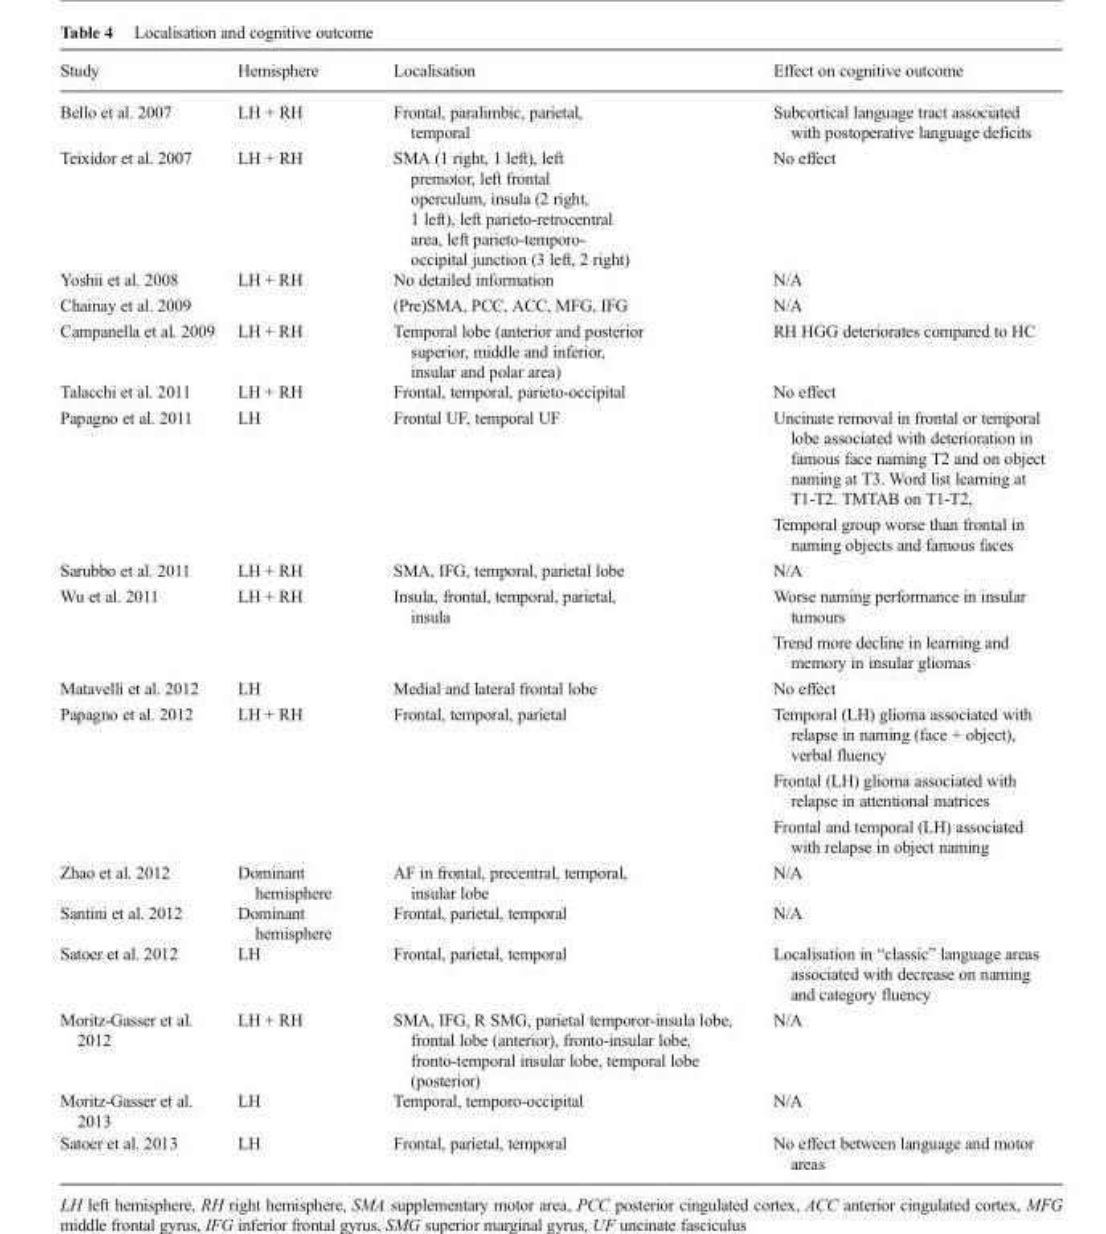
<table><thead><tr><td>Study</td><td>Hemisphere</td><td>Localisation</td><td>Effect on cognitive outcome</td></tr></thead><tbody><tr><td>Bello et al. 2007</td><td>LH + RH</td><td>Frontal, paralimbic, parietal, temporal</td><td>Subcortical language tract associated with postoperative language deficits</td></tr><tr><td>Teixidor et al. 2007</td><td>LH + RH</td><td>SMA (1 right, 1 left), left premotor, left frontal operculum, insula (2 right, 1 left), left parieto-retrocentral area, left parieto-temporo- occipital junction (3 left, 2 right)</td><td>No effect</td></tr><tr><td>Yoshii et al. 2008</td><td rowspan="2">LH + RH</td><td>No detailed information</td><td>N/A</td></tr><tr><td>Chainay et al. 2009</td><td>(Pre)SMA, PCC, ACC, MFG, IFG</td><td>N/A</td></tr><tr><td>Campanella et al. 2009</td><td>LH + RH</td><td>Temporal lobe (anterior and posterior superior, middle and inferior, insular and polar area)</td><td>RH HGG deteriorates compared to HC</td></tr><tr><td>Talacchi et al. 2011</td><td>LH + RH</td><td>Frontal, temporal, parieto-occipital</td><td>No effect</td></tr><tr><td rowspan="2">Papagno et al. 2011</td><td rowspan="2">LH</td><td rowspan="2">Frontal UF, temporal UF</td><td>Uncinate removal in frontal or temporal lobe associated with deterioration in famous face naming T2 and on object naming at T3. Word list learning at T1-T2. TMTAB on T1-T2,</td></tr><tr><td>Temporal group worse than frontal in naming objects and famous faces</td></tr><tr><td>Sarubbo et al. 2011</td><td>LH + RH</td><td>SMA, IFG, temporal, parietal lobe</td><td>N/A</td></tr><tr><td rowspan="2">Wu et al. 2011</td><td rowspan="2">LH + RH</td><td rowspan="2">Insula, frontal, temporal, parietal, insula</td><td>Worse naming performance in insular tumours</td></tr><tr><td>Trend more decline in learning and memory in insular gliomas</td></tr><tr><td>Matavelli et al. 2012</td><td>LH</td><td>Medial and lateral frontal lobe</td><td>No effect</td></tr><tr><td rowspan="3">Papagno et al. 2012</td><td rowspan="3">LH + RH</td><td rowspan="3">Frontal, temporal, parietal</td><td>Temporal (LH) glioma associated with relapse in naming (face + object), verbal fluency</td></tr><tr><td>Frontal (LH) glioma associated with relapse in attentional matrices</td></tr><tr><td>Frontal and temporal (LH) associated with relapse in object naming</td></tr><tr><td>Zhao et al. 2012</td><td>Dominant hemisphere</td><td>AF in frontal, precentral, temporal, insular lobe</td><td>N/A</td></tr><tr><td>Santini et al. 2012</td><td>Dominant hemisphere</td><td>Frontal, parietal, temporal</td><td>N/A</td></tr><tr><td>Satoer et al. 2012</td><td>LH</td><td>Frontal, parietal, temporal</td><td>Localisation in “classic” language areas associated with decrease on naming and category fluency</td></tr><tr><td>Moritz-Gasser et al. 2012</td><td>LH + RH</td><td>SMA, IFG, R SMG, parietal temporor-insula lobe, frontal lobe (anterior), fronto-insular lobe, fronto-temporal insular lobe, temporal lobe (posterior)</td><td>N/A</td></tr><tr><td>Moritz-Gasser et al. 2013</td><td>LH</td><td>Temporal, temporo-occipital</td><td>N/A</td></tr><tr><td>Satoer et al. 2013</td><td>LH</td><td>Frontal, parietal, temporal</td><td>No effect between language and motor areas</td></tr></tbody></table>